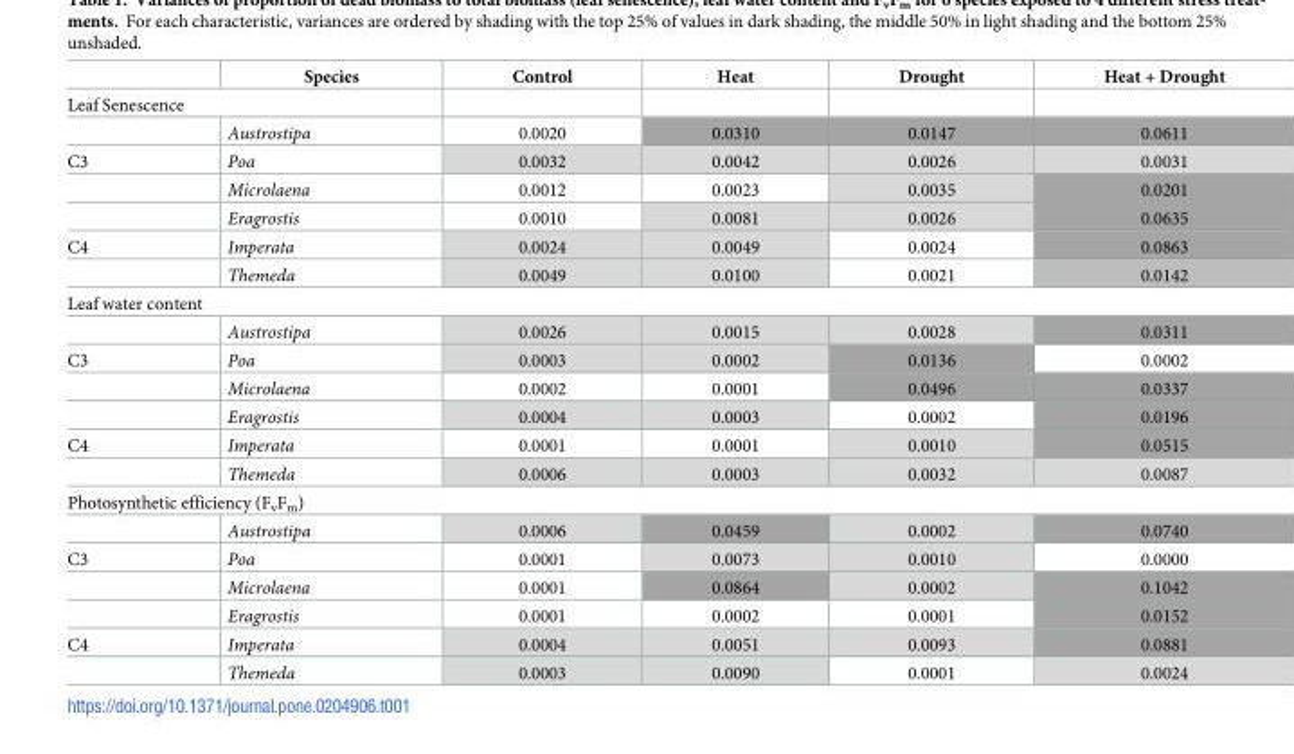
<table><thead><tr><td></td><td>Species</td><td>Control</td><td>Heat</td><td>Drought</td><td>Heat + Drought</td></tr></thead><tbody><tr><td colspan="6">Leaf Senescence</td></tr><tr><td></td><td>Austrostipa</td><td>0.0020</td><td>0.0310</td><td>0.0147</td><td>0.0611</td></tr><tr><td rowspan="3">C3</td><td>Poa</td><td>0.0032</td><td>0.0042</td><td>0.0026</td><td>0.0031</td></tr><tr><td>Microlaena</td><td>0.0012</td><td>0.0023</td><td>0.0035</td><td>0.0201</td></tr><tr><td>Eragrostis</td><td>0.0010</td><td>0.0081</td><td>0.0026</td><td>0.0635</td></tr><tr><td rowspan="2">C4</td><td>Imperata</td><td>0.0024</td><td>0.0049</td><td>0.0024</td><td>0.0863</td></tr><tr><td>Themeda</td><td>0.0049</td><td>0.0100</td><td>0.0021</td><td>0.0142</td></tr><tr><td colspan="6">Leaf water content</td></tr><tr><td></td><td>Austrostipa</td><td>0.0026</td><td>0.0015</td><td>0.0028</td><td>0.0311</td></tr><tr><td rowspan="3">C3</td><td>Poa</td><td>0.0003</td><td>0.0002</td><td>0.0136</td><td>0.0002</td></tr><tr><td>Microlaena</td><td>0.0002</td><td>0.0001</td><td>0.0496</td><td>0.0337</td></tr><tr><td>Eragrostis</td><td>0.0004</td><td>0.0003</td><td>0.0002</td><td>0.0196</td></tr><tr><td rowspan="2">C4</td><td>Imperata</td><td>0.0001</td><td>0.0001</td><td>0.0010</td><td>0.0515</td></tr><tr><td>Themeda</td><td>0.0006</td><td>0.0003</td><td>0.0032</td><td>0.0087</td></tr><tr><td colspan="6">Photosynthetic efficiency (F<sub>v</sub>F<sub>m</sub>)</td></tr><tr><td></td><td>Austrostipa</td><td>0.0006</td><td>0.0459</td><td>0.0002</td><td>0.0740</td></tr><tr><td rowspan="3">C3</td><td>Poa</td><td>0.0001</td><td>0.0073</td><td>0.0010</td><td>0.0000</td></tr><tr><td>Microlaena</td><td>0.0001</td><td>0.0864</td><td>0.0002</td><td>0.1042</td></tr><tr><td>Eragrostis</td><td>0.0001</td><td>0.0002</td><td>0.0001</td><td>0.0152</td></tr><tr><td rowspan="2">C4</td><td>Imperata</td><td>0.0004</td><td>0.0051</td><td>0.0093</td><td>0.0881</td></tr><tr><td>Themeda</td><td>0.0003</td><td>0.0090</td><td>0.0001</td><td>0.0024</td></tr></tbody></table>